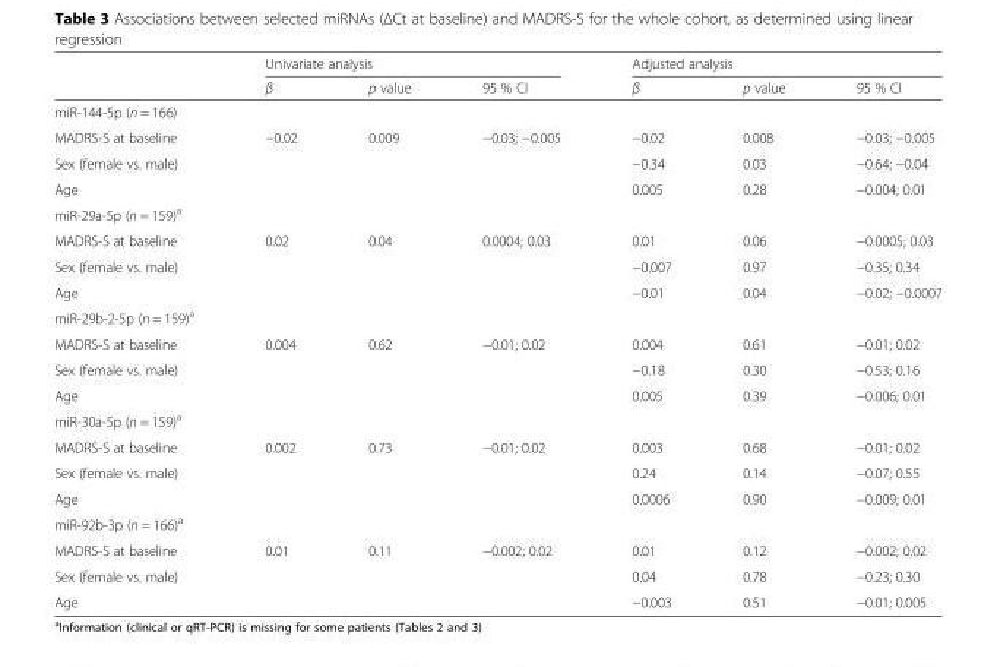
<table><thead><tr><td rowspan="2"></td><td colspan="3">Univariate analysis</td><td colspan="3">Adjusted analysis</td></tr><tr><td>β</td><td>p value</td><td>95 % CI</td><td>β</td><td>p value</td><td>95 % CI</td></tr></thead><tbody><tr><td colspan="7">miR-144-5p (n = 166)</td></tr><tr><td>MADRS-S at baseline</td><td>−0.02</td><td>0.009</td><td>−0.03; −0.005</td><td>−0.02</td><td>0.008</td><td>−0.03; −0.005</td></tr><tr><td>Sex (female vs. male)</td><td></td><td></td><td></td><td>−0.34</td><td>0.03</td><td>−0.64; −0.04</td></tr><tr><td>Age</td><td></td><td></td><td></td><td>0.005</td><td>0.28</td><td>−0.004; 0.01</td></tr><tr><td colspan="7">miR-29a-5p (n = 159)<sup>a</sup></td></tr><tr><td>MADRS-S at baseline</td><td>0.02</td><td>0.04</td><td>0.0004; 0.03</td><td>0.01</td><td>0.06</td><td>−0.0005; 0.03</td></tr><tr><td>Sex (female vs. male)</td><td></td><td></td><td></td><td>−0.007</td><td>0.97</td><td>−0.35; 0.34</td></tr><tr><td>Age</td><td></td><td></td><td></td><td>−0.01</td><td>0.04</td><td>−0.02; −0.0007</td></tr><tr><td colspan="7">miR-29b-2-5p (n = 159)<sup>a</sup></td></tr><tr><td>MADRS-S at baseline</td><td>0.004</td><td>0.62</td><td>−0.01; 0.02</td><td>0.004</td><td>0.61</td><td>−0.01; 0.02</td></tr><tr><td>Sex (female vs. male)</td><td></td><td></td><td></td><td>−0.18</td><td>0.30</td><td>−0.53; 0.16</td></tr><tr><td>Age</td><td></td><td></td><td></td><td>0.005</td><td>0.39</td><td>−0.006; 0.01</td></tr><tr><td colspan="7">miR-30a-5p (n = 159)<sup>a</sup></td></tr><tr><td>MADRS-S at baseline</td><td>0.002</td><td>0.73</td><td>−0.01; 0.02</td><td>0.003</td><td>0.68</td><td>−0.01; 0.02</td></tr><tr><td>Sex (female vs. male)</td><td></td><td></td><td></td><td>0.24</td><td>0.14</td><td>−0.07; 0.55</td></tr><tr><td>Age</td><td></td><td></td><td></td><td>0.0006</td><td>0.90</td><td>−0.009; 0.01</td></tr><tr><td colspan="7">miR-92b-3p (n = 166)<sup>a</sup></td></tr><tr><td>MADRS-S at baseline</td><td>0.01</td><td>0.11</td><td>−0.002; 0.02</td><td>0.01</td><td>0.12</td><td>−0.002; 0.02</td></tr><tr><td>Sex (female vs. male)</td><td></td><td></td><td></td><td>0.04</td><td>0.78</td><td>−0.23; 0.30</td></tr><tr><td>Age</td><td></td><td></td><td></td><td>−0.003</td><td>0.51</td><td>−0.01; 0.005</td></tr></tbody></table>